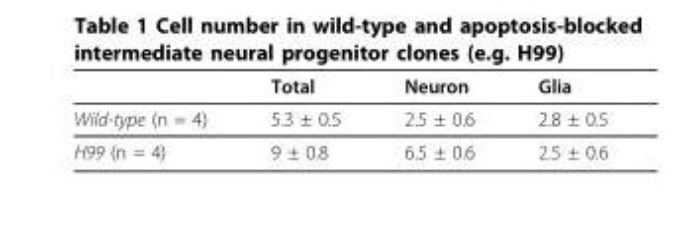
<table><thead><tr><td></td><td>Total</td><td>Neuron</td><td>Glia</td></tr></thead><tbody><tr><td>Wild-type (n = 4)</td><td>5.3 ± 0.5</td><td>2.5 ± 0.6</td><td>2.8 ± 0.5</td></tr><tr><td>H99 (n = 4)</td><td>9 ± 0.8</td><td>6.5 ± 0.6</td><td>2.5 ± 0.6</td></tr></tbody></table>